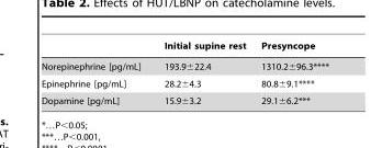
<table><thead><tr><td></td><td>Initial supine rest</td><td>Presyncope</td></tr></thead><tbody><tr><td>Norepinephrine [pg/mL]</td><td>193.9±22.4</td><td>1310.2±96.3****</td></tr><tr><td>Epinephrine [pg/mL]</td><td>28.2±4.3</td><td>80.8±9.1****</td></tr><tr><td>Dopamine [pg/mL]</td><td>15.9±3.2</td><td>29.1±6.2***</td></tr></tbody></table>